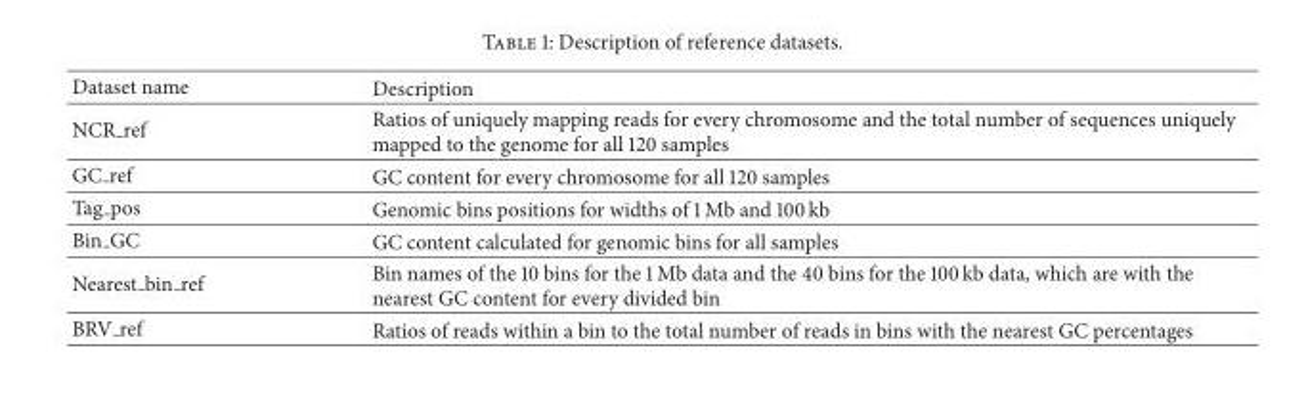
<table><thead><tr><td>Dataset name</td><td>Description</td></tr></thead><tbody><tr><td>NCR ref</td><td>Ratios of uniquely mapping reads for every chromosome and the total number of sequences uniquely mapped to the genome for all 120 samples</td></tr><tr><td>GC ref</td><td>GC content for every chromosome for all 120 samples</td></tr><tr><td>Tag pos</td><td>Genomic bins positions for widths of 1 Mb and 100 kb</td></tr><tr><td>Bin GC</td><td>GC content calculated for genomic bins for all samples</td></tr><tr><td>Nearest <sub>bin</sub> ref</td><td>Bin names of the 10 bins for the 1 Mb data and the 40 bins for the 100 kb data, which are with the nearest GC content for every divided bin</td></tr><tr><td>BRV ref</td><td>Ratios of reads within a bin to the total number of reads in bins with the nearest GC percentages</td></tr></tbody></table>